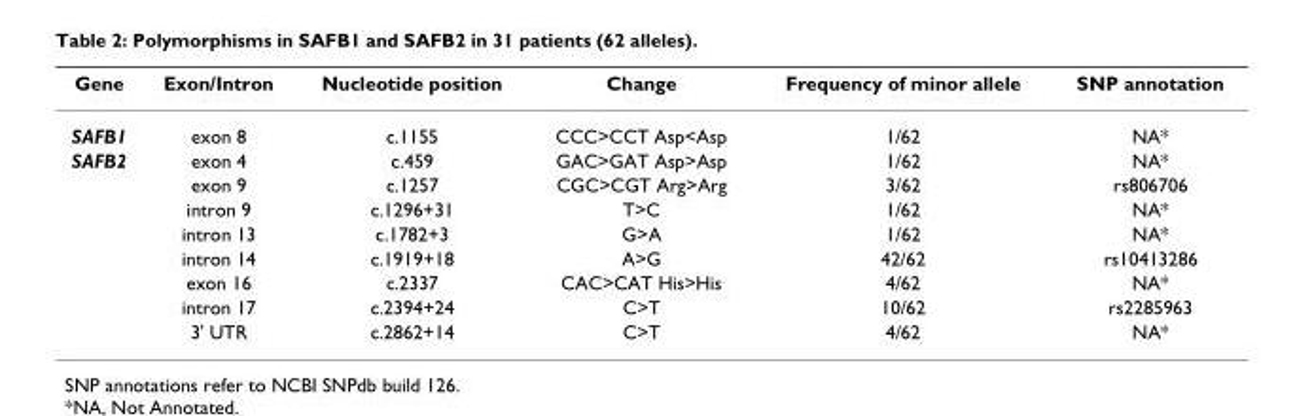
<table><thead><tr><td>Gene</td><td>Exon/Intron</td><td>Nucleotide position</td><td>Change</td><td>Frequency of minor allele</td><td>SNP annotation</td></tr></thead><tbody><tr><td>SAFB1</td><td>exon 8</td><td>c.1155</td><td>CCC&gt;CCT Asp&lt;Asp</td><td>1/62</td><td>NA*</td></tr><tr><td rowspan="8">SAFB2</td><td>exon 4</td><td>c.459</td><td>GAC&gt;GAT Asp&gt;Asp</td><td>1/62</td><td>NA*</td></tr><tr><td>exon 9</td><td>c.1257</td><td>CGC&gt;CGT Arg&gt;Arg</td><td>3/62</td><td>rs806706</td></tr><tr><td>intron 9</td><td>c.1296+31</td><td>T&gt;C</td><td>1/62</td><td>NA*</td></tr><tr><td>intron 13</td><td>c.1782+3</td><td>G&gt;A</td><td>1/62</td><td>NA*</td></tr><tr><td>intron 14</td><td>c.1919+18</td><td>A&gt;G</td><td>42/62</td><td>rs10413286</td></tr><tr><td>exon 16</td><td>c.2337</td><td>CAC&gt;CAT His&gt;His</td><td>4/62</td><td>NA*</td></tr><tr><td>intron 17</td><td>c.2394+24</td><td>C&gt;T</td><td>10/62</td><td>rs2285963</td></tr><tr><td>3&#x27; UTR</td><td>c.2862+14</td><td>C&gt;T</td><td>4/62</td><td>NA*</td></tr></tbody></table>